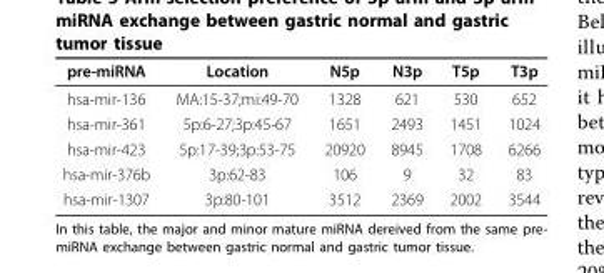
<table><thead><tr><td>pre-miRNA</td><td>Location</td><td>N5p</td><td>N3p</td><td>T5p</td><td>T3p</td></tr></thead><tbody><tr><td>hsa-mir-136</td><td>MA:15-37;mi:49-70</td><td>1328</td><td>621</td><td>530</td><td>652</td></tr><tr><td>hsa-mir-361</td><td>5p:6-27;3p:45-67</td><td>1651</td><td>2493</td><td>1451</td><td>1024</td></tr><tr><td>hsa-mir-423</td><td>5p:17-39;3p:53-75</td><td>20920</td><td>8945</td><td>1708</td><td>6266</td></tr><tr><td>hsa-mir-376b</td><td>3p:62-83</td><td>106</td><td>9</td><td>32</td><td>83</td></tr><tr><td>hsa-mir-1307</td><td>3p:80-101</td><td>3512</td><td>2369</td><td>2002</td><td>3544</td></tr></tbody></table>